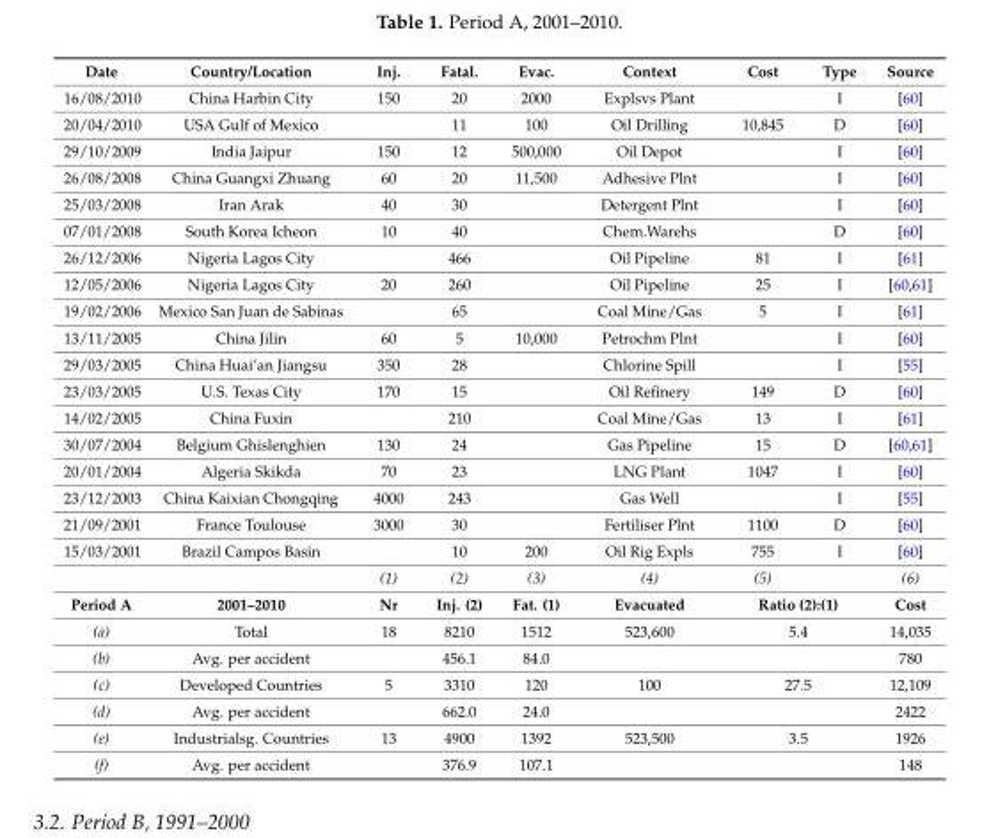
<table><tbody><tr><td>Date</td><td>Country/Location</td><td>Inj.</td><td>Fatal.</td><td>Evac.</td><td>Context</td><td>Cost</td><td>Type</td><td>Source</td></tr><tr><td>16/08/2010</td><td>China Harbin City</td><td>150</td><td>20</td><td>2000</td><td>Explsvs Plant</td><td></td><td>I</td><td>[60]</td></tr><tr><td>20/04/2010</td><td>USA Gulf of Mexico</td><td></td><td>11</td><td>100</td><td>Oil Drilling</td><td>10,845</td><td>D</td><td>[60]</td></tr><tr><td>29/10/2009</td><td>India Jaipur</td><td>150</td><td>12</td><td>500,000</td><td>Oil Depot</td><td></td><td>I</td><td>[60]</td></tr><tr><td>26/08/2008</td><td>China Guangxi Zhuang</td><td>60</td><td>20</td><td>11,500</td><td>Adhesive Plnt</td><td></td><td>I</td><td>[60]</td></tr><tr><td>25/03/2008</td><td>Iran Arak</td><td>40</td><td>30</td><td></td><td>Detergent Plnt</td><td></td><td>I</td><td>[60]</td></tr><tr><td>07/01/2008</td><td>South Korea Icheon</td><td>10</td><td>40</td><td></td><td>Chem.Warehs</td><td></td><td>D</td><td>[60]</td></tr><tr><td>26/12/2006</td><td>Nigeria Lagos City</td><td></td><td>466</td><td></td><td>Oil Pipeline</td><td>81</td><td>I</td><td>[61]</td></tr><tr><td>12/05/2006</td><td>Nigeria Lagos City</td><td>20</td><td>260</td><td></td><td>Oil Pipeline</td><td>25</td><td>I</td><td>[60,61]</td></tr><tr><td>19/02/2006</td><td>Mexico San Juan de Sabinas</td><td></td><td>65</td><td></td><td>Coal Mine/Gas</td><td>5</td><td>I</td><td>[61]</td></tr><tr><td>13/11/2005</td><td>China Jilin</td><td>60</td><td>5</td><td>10,000</td><td>Petrochm Plnt</td><td></td><td>I</td><td>[60]</td></tr><tr><td>29/03/2005</td><td>China Huai’an Jiangsu</td><td>350</td><td>28</td><td></td><td>Chlorine Spill</td><td></td><td>I</td><td>[55]</td></tr><tr><td>23/03/2005</td><td>U.S. Texas City</td><td>170</td><td>15</td><td></td><td>Oil Refinery</td><td>149</td><td>D</td><td>[60]</td></tr><tr><td>14/02/2005</td><td>China Fuxin</td><td></td><td>210</td><td></td><td>Coal Mine/Gas</td><td>13</td><td>I</td><td>[61]</td></tr><tr><td>30/07/2004</td><td>Belgium Ghislenghien</td><td>130</td><td>24</td><td></td><td>Gas Pipeline</td><td>15</td><td>D</td><td>[60,61]</td></tr><tr><td>20/01/2004</td><td>Algeria Skikda</td><td>70</td><td>23</td><td></td><td>LNG Plant</td><td>1047</td><td>I</td><td>[60]</td></tr><tr><td>23/12/2003</td><td>China Kaixian Chongqing</td><td>4000</td><td>243</td><td></td><td>Gas Well</td><td></td><td>I</td><td>[55]</td></tr><tr><td>21/09/2001</td><td>France Toulouse</td><td>3000</td><td>30</td><td></td><td>Fertiliser Plnt</td><td>1100</td><td>D</td><td>[60]</td></tr><tr><td rowspan="2">15/03/2001</td><td>Brazil Campos Basin</td><td></td><td>10</td><td>200</td><td>Oil Rig Expls</td><td>755</td><td>I</td><td>[60]</td></tr><tr><td></td><td>(1)</td><td>(2)</td><td>(3)</td><td>(4)</td><td>(5)</td><td></td><td>(6)</td></tr><tr><td>Period A</td><td>2001–2010</td><td>Nr</td><td>Inj. (2)</td><td>Fat. (1)</td><td>Evacuated</td><td colspan="2">Ratio (2):(1)</td><td>Cost</td></tr><tr><td>(a)</td><td>Total</td><td>18</td><td>8210</td><td>1512</td><td>523,600</td><td colspan="2">5.4</td><td>14,035</td></tr><tr><td>(b)</td><td>Avg. per accident</td><td></td><td>456.1</td><td>84.0</td><td></td><td colspan="2"></td><td>780</td></tr><tr><td>(c)</td><td>Developed Countries</td><td>5</td><td>3310</td><td>120</td><td>100</td><td colspan="2">27.5</td><td>12,109</td></tr><tr><td>(d)</td><td>Avg. per accident</td><td></td><td>662.0</td><td>24.0</td><td></td><td colspan="2"></td><td>2422</td></tr><tr><td>(e)</td><td>Industrialsg. Countries</td><td>13</td><td>4900</td><td>1392</td><td>523,500</td><td colspan="2">3.5</td><td>1926</td></tr><tr><td>(f)</td><td>Avg. per accident</td><td></td><td>376.9</td><td>107.1</td><td></td><td colspan="2"></td><td>148</td></tr></tbody></table>